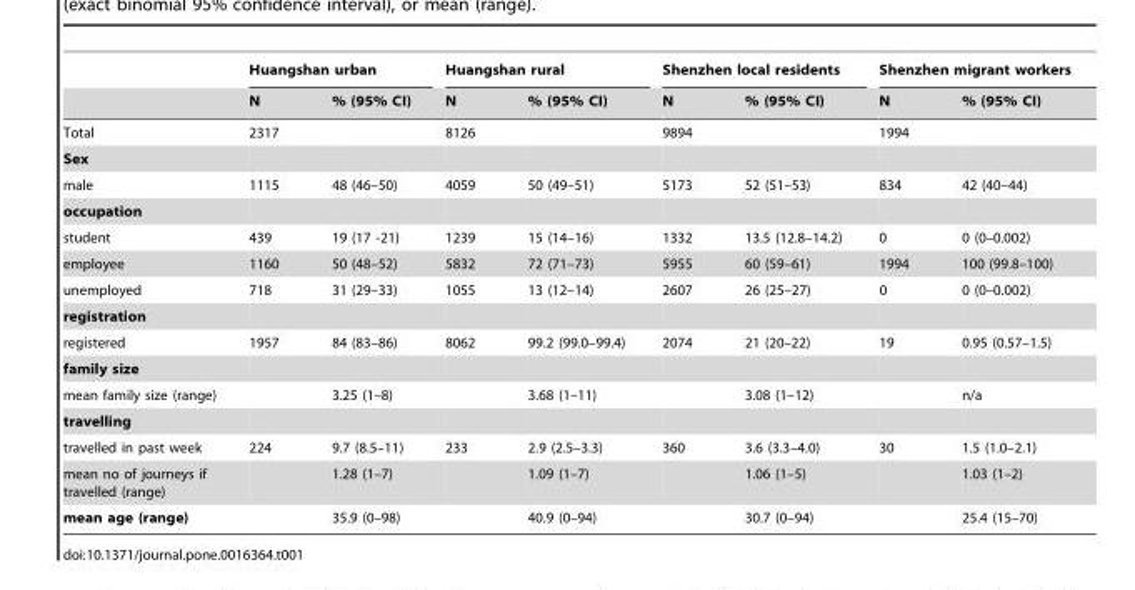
<table><thead><tr><td rowspan="2"></td><td colspan="2">Huangshan urban</td><td colspan="2">Huangshan rural</td><td colspan="2">Shenzhen local residents</td><td colspan="2">Shenzhen migrant workers</td></tr><tr><td>N</td><td>% (95% CI)</td><td>N</td><td>% (95% CI)</td><td>N</td><td>% (95% CI)</td><td>N</td><td>% (95% CI)</td></tr></thead><tbody><tr><td>Total</td><td>2317</td><td></td><td>8126</td><td></td><td>9894</td><td></td><td>1994</td><td></td></tr><tr><td colspan="9">Sex</td></tr><tr><td>male</td><td>1115</td><td>48 (46–50)</td><td>4059</td><td>50 (49–51)</td><td>5173</td><td>52 (51–53)</td><td>834</td><td>42 (40–44)</td></tr><tr><td colspan="9">occupation</td></tr><tr><td>student</td><td>439</td><td>19 (17 -21)</td><td>1239</td><td>15 (14–16)</td><td>1332</td><td>13.5 (12.8–14.2)</td><td>0</td><td>0 (0–0.002)</td></tr><tr><td>employee</td><td>1160</td><td>50 (48–52)</td><td>5832</td><td>72 (71–73)</td><td>5955</td><td>60 (59–61)</td><td>1994</td><td>100 (99.8–100)</td></tr><tr><td>unemployed</td><td>718</td><td>31 (29–33)</td><td>1055</td><td>13 (12–14)</td><td>2607</td><td>26 (25–27)</td><td>0</td><td>0 (0–0.002)</td></tr><tr><td colspan="9">registration</td></tr><tr><td>registered</td><td>1957</td><td>84 (83–86)</td><td>8062</td><td>99.2 (99.0–99.4)</td><td>2074</td><td>21 (20–22)</td><td>19</td><td>0.95 (0.57–1.5)</td></tr><tr><td colspan="9">family size</td></tr><tr><td>mean family size (range)</td><td></td><td>3.25 (1–8)</td><td></td><td>3.68 (1–11)</td><td></td><td>3.08 (1–12)</td><td></td><td>n/a</td></tr><tr><td colspan="9">travelling</td></tr><tr><td>travelled in past week</td><td>224</td><td>9.7 (8.5–11)</td><td>233</td><td>2.9 (2.5–3.3)</td><td>360</td><td>3.6 (3.3–4.0)</td><td>30</td><td>1.5 (1.0–2.1)</td></tr><tr><td>mean no of journeys if travelled (range)</td><td></td><td>1.28 (1–7)</td><td></td><td>1.09 (1–7)</td><td></td><td>1.06 (1–5)</td><td></td><td>1.03 (1–2)</td></tr><tr><td>mean age (range)</td><td></td><td>35.9 (0–98)</td><td></td><td>40.9 (0–94)</td><td></td><td>30.7 (0–94)</td><td></td><td>25.4 (15–70)</td></tr></tbody></table>